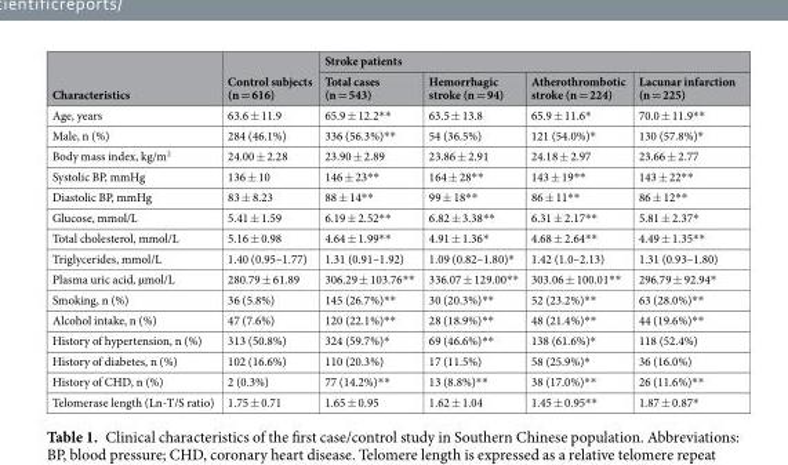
<table><thead><tr><td rowspan="2">Characteristics</td><td rowspan="2">Control subjects (n = 616)</td><td colspan="4">Stroke patients</td></tr><tr><td>Total cases (n = 543)</td><td>Hemorrhagic stroke (n = 94)</td><td>Atherothrombotic stroke (n = 224)</td><td>Lacunar infarction (n = 225)</td></tr></thead><tbody><tr><td>Age, years</td><td>63.6 ± 11.9</td><td>65.9 ± 12.2**</td><td>63.5 ± 13.8</td><td>65.9 ± 11.6*</td><td>70.0 ± 11.9**</td></tr><tr><td>Male, n (%)</td><td>284 (46.1%)</td><td>336 (56.3%)**</td><td>54 (36.5%)</td><td>121 (54.0%)*</td><td>130 (57.8%)*</td></tr><tr><td>Body mass index, kg/m<sup>2</sup></td><td>24.00 ± 2.28</td><td>23.90 ± 2.89</td><td>23.86 ± 2.91</td><td>24.18 ± 2.97</td><td>23.66 ± 2.77</td></tr><tr><td>Systolic BP, mmHg</td><td>136 ± 10</td><td>146 ± 23**</td><td>164 ± 28**</td><td>143 ± 19**</td><td>143 ± 22**</td></tr><tr><td>Diastolic BP, mmHg</td><td>83 ± 8.23</td><td>88 ± 14**</td><td>99 ± 18**</td><td>86 ± 11**</td><td>86 ± 12**</td></tr><tr><td>Glucose, mmol/L</td><td>5.41 ± 1.59</td><td>6.19 ± 2.52**</td><td>6.82 ± 3.38**</td><td>6.31 ± 2.17**</td><td>5.81 ± 2.37*</td></tr><tr><td>Total cholesterol, mmol/L</td><td>5.16 ± 0.98</td><td>4.64 ± 1.99**</td><td>4.91 ± 1.36*</td><td>4.68 ± 2.64**</td><td>4.49 ± 1.35**</td></tr><tr><td>Triglycerides, mmol/L</td><td>1.40 (0.95–1.77)</td><td>1.31 (0.91–1.92)</td><td>1.09 (0.82–1.80)*</td><td>1.42 (1.0–2.13)</td><td>1.31 (0.93–1.80)</td></tr><tr><td>Plasma uric acid, µmol/L</td><td>280.79 ± 61.89</td><td>306.29 ± 103.76**</td><td>336.07 ± 129.00**</td><td>303.06 ± 100.01**</td><td>296.79 ± 92.94*</td></tr><tr><td>Smoking, n (%)</td><td>36 (5.8%)</td><td>145 (26.7%)**</td><td>30 (20.3%)**</td><td>52 (23.2%)**</td><td>63 (28.0%)**</td></tr><tr><td>Alcohol intake, n (%)</td><td>47 (7.6%)</td><td>120 (22.1%)**</td><td>28 (18.9%)**</td><td>48 (21.4%)**</td><td>44 (19.6%)**</td></tr><tr><td>History of hypertension, n (%)</td><td>313 (50.8%)</td><td>324 (59.7%)*</td><td>69 (46.6%)**</td><td>138 (61.6%)*</td><td>118 (52.4%)</td></tr><tr><td>History of diabetes, n (%)</td><td>102 (16.6%)</td><td>110 (20.3%)</td><td>17 (11.5%)</td><td>58 (25.9%)*</td><td>36 (16.0%)</td></tr><tr><td>History of CHD, n (%)</td><td>2 (0.3%)</td><td>77 (14.2%)**</td><td>13 (8.8%)**</td><td>38 (17.0%)**</td><td>26 (11.6%)**</td></tr><tr><td>Telomerase length (Ln-T/S ratio)</td><td>1.75 ± 0.71</td><td>1.65 ± 0.95</td><td>1.62 ± 1.04</td><td>1.45 ± 0.95**</td><td>1.87 ± 0.87*</td></tr></tbody></table>